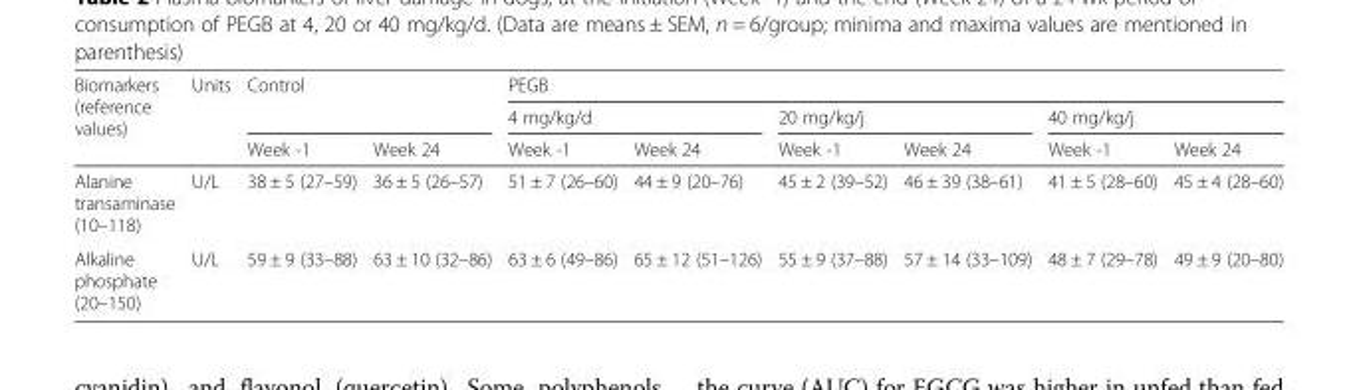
<table><thead><tr><td rowspan="3">Biomarkers (reference values)</td><td rowspan="3">Units</td><td rowspan="2" colspan="2">Control</td><td colspan="6">PEGB</td></tr><tr><td colspan="2">4 mg/kg/d</td><td colspan="2">20 mg/kg/j</td><td colspan="2">40 mg/kg/j</td></tr><tr><td>Week -1</td><td>Week 24</td><td>Week -1</td><td>Week 24</td><td>Week -1</td><td>Week 24</td><td>Week -1</td><td>Week 24</td></tr></thead><tbody><tr><td>Alanine transaminase (10–118)</td><td>U/L</td><td>38 ± 5 (27–59)</td><td>36 ± 5 (26–57)</td><td>51 ± 7 (26–60)</td><td>44 ± 9 (20–76)</td><td>45 ± 2 (39–52)</td><td>46 ± 39 (38–61)</td><td>41 ± 5 (28–60)</td><td>45 ± 4 (28–60)</td></tr><tr><td>Alkaline phosphate (20–150)</td><td>U/L</td><td>59 ± 9 (33–88)</td><td>63 ± 10 (32–86)</td><td>63 ± 6 (49–86)</td><td>65 ± 12 (51–126)</td><td>55 ± 9 (37–88)</td><td>57 ± 14 (33–109)</td><td>48 ± 7 (29–78)</td><td>49 ± 9 (20–80)</td></tr></tbody></table>